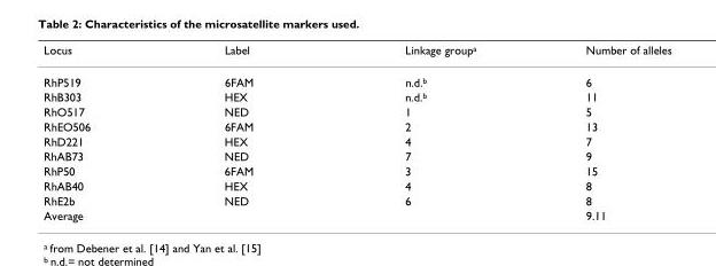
<table><thead><tr><td>Locus</td><td>Label</td><td>Linkage groupa</td><td>Number of alleles</td></tr></thead><tbody><tr><td>RhP519</td><td>6FAM</td><td>n.d.b</td><td>6</td></tr><tr><td>RhB303</td><td>HEX</td><td>n.d.b</td><td>11</td></tr><tr><td>RhO517</td><td>NED</td><td>1</td><td>5</td></tr><tr><td>RhEO506</td><td>6FAM</td><td>2</td><td>13</td></tr><tr><td>RhD221</td><td>HEX</td><td>4</td><td>7</td></tr><tr><td>RhAB73</td><td>NED</td><td>7</td><td>9</td></tr><tr><td>RhP50</td><td>6FAM</td><td>3</td><td>15</td></tr><tr><td>RhAB40</td><td>HEX</td><td>4</td><td>8</td></tr><tr><td>RhE2b</td><td>NED</td><td>6</td><td>8</td></tr><tr><td>Average</td><td></td><td></td><td>9.11</td></tr></tbody></table>